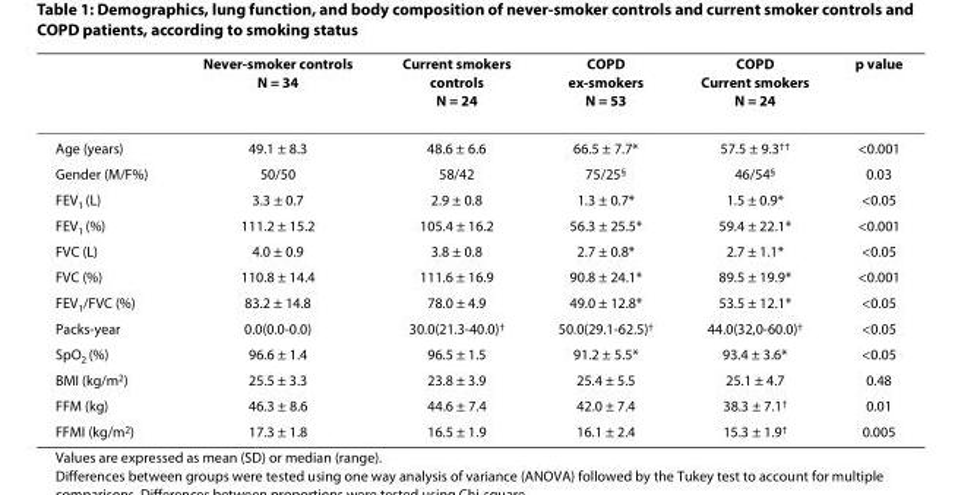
<table><thead><tr><td></td><td>Never-smoker controls N = 34</td><td>Current smokers controls N = 24</td><td>COPD ex-smokers N = 53</td><td>COPD Current smokers N = 24</td><td>p value</td></tr></thead><tbody><tr><td>Age (years)</td><td>49.1 ± 8.3</td><td>48.6 ± 6.6</td><td>66.5 ± 7.7*</td><td>57.5 ± 9.3<sup>††</sup></td><td>&lt;0.001</td></tr><tr><td>Gender (M/F%)</td><td>50/50</td><td>58/42</td><td>75/25<sup>§</sup></td><td>46/54<sup>§</sup></td><td>0.03</td></tr><tr><td>FEV<sub>1</sub> (L)</td><td>3.3 ± 0.7</td><td>2.9 ± 0.8</td><td>1.3 ± 0.7*</td><td>1.5 ± 0.9*</td><td>&lt;0.05</td></tr><tr><td>FEV<sub>1</sub> (%)</td><td>111.2 ± 15.2</td><td>105.4 ± 16.2</td><td>56.3 ± 25.5*</td><td>59.4 ± 22.1*</td><td>&lt;0.001</td></tr><tr><td>FVC (L)</td><td>4.0 ± 0.9</td><td>3.8 ± 0.8</td><td>2.7 ± 0.8*</td><td>2.7 ± 1.1*</td><td>&lt;0.05</td></tr><tr><td>FVC (%)</td><td>110.8 ± 14.4</td><td>111.6 ± 16.9</td><td>90.8 ± 24.1*</td><td>89.5 ± 19.9*</td><td>&lt;0.001</td></tr><tr><td>FEV<sub>1</sub>/FVC (%)</td><td>83.2 ± 14.8</td><td>78.0 ± 4.9</td><td>49.0 ± 12.8*</td><td>53.5 ± 12.1*</td><td>&lt;0.05</td></tr><tr><td>Packs-year</td><td>0.0(0.0-0.0)</td><td>30.0(21.3-40.0)<sup>†</sup></td><td>50.0(29.1-62.5)<sup>†</sup></td><td>44.0(32,0-60.0)<sup>†</sup></td><td>&lt;0.05</td></tr><tr><td>SpO<sub>2</sub> (%)</td><td>96.6 ± 1.4</td><td>96.5 ± 1.5</td><td>91.2 ± 5.5*</td><td>93.4 ± 3.6*</td><td>&lt;0.05</td></tr><tr><td>BMI (kg/m<sup>2</sup>)</td><td>25.5 ± 3.3</td><td>23.8 ± 3.9</td><td>25.4 ± 5.5</td><td>25.1 ± 4.7</td><td>0.48</td></tr><tr><td>FFM (kg)</td><td>46.3 ± 8.6</td><td>44.6 ± 7.4</td><td>42.0 ± 7.4</td><td>38.3 ± 7.1<sup>†</sup></td><td>0.01</td></tr><tr><td>FFMI (kg/m<sup>2</sup>)</td><td>17.3 ± 1.8</td><td>16.5 ± 1.9</td><td>16.1 ± 2.4</td><td>15.3 ± 1.9<sup>†</sup></td><td>0.005</td></tr></tbody></table>